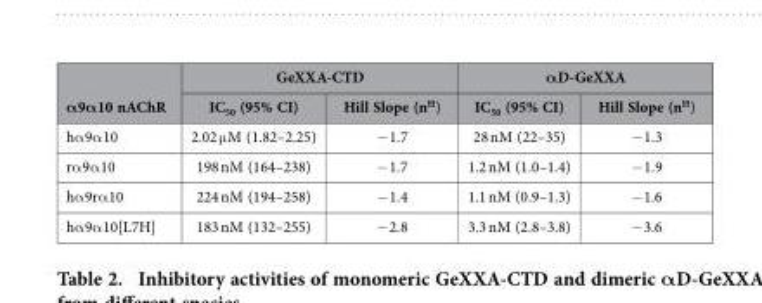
<table><thead><tr><td rowspan="2">α9α10 nAChR</td><td colspan="2">GeXXA-CTD</td><td colspan="2">αD-GeXXA</td></tr><tr><td>IC<sub>50</sub> (95% CI)</td><td>Hill Slope (n<sup>H</sup>)</td><td>IC<sub>50</sub> (95% CI)</td><td>Hill Slope (n<sup>H</sup>)</td></tr></thead><tbody><tr><td>hα 9α 10</td><td>2.02 μ M (1.82–2.25)</td><td>− 1.7</td><td>28 nM (22–35)</td><td>− 1.3</td></tr><tr><td>rα 9α 10</td><td>198 nM (164–238)</td><td>− 1.7</td><td>1.2 nM (1.0–1.4)</td><td>− 1.9</td></tr><tr><td>hα 9rα 10</td><td>224 nM (194–258)</td><td>− 1.4</td><td>1.1 nM (0.9–1.3)</td><td>− 1.6</td></tr><tr><td>hα 9α 10[L7H]</td><td>183 nM (132–255)</td><td>− 2.8</td><td>3.3 nM (2.8–3.8)</td><td>− 3.6</td></tr></tbody></table>